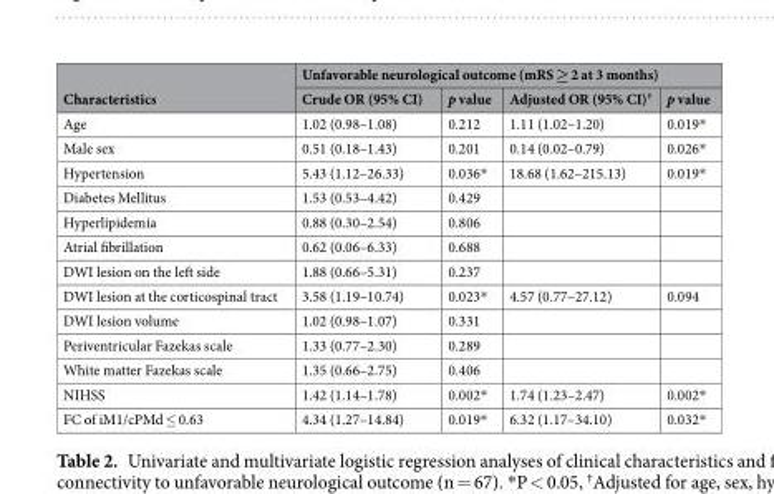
<table><thead><tr><td rowspan="2">Characteristics</td><td colspan="4">Unfavorable neurological outcome (mRS ≥ 2 at 3 months)</td></tr><tr><td>Crude OR (95% CI)</td><td>p value</td><td>Adjusted OR (95% CI)<sup>†</sup></td><td>p value</td></tr></thead><tbody><tr><td>Age</td><td>1.02 (0.98–1.08)</td><td>0.212</td><td>1.11 (1.02–1.20)</td><td>0.019*</td></tr><tr><td>Male sex</td><td>0.51 (0.18–1.43)</td><td>0.201</td><td>0.14 (0.02–0.79)</td><td>0.026*</td></tr><tr><td>Hypertension</td><td>5.43 (1.12–26.33)</td><td>0.036*</td><td>18.68 (1.62–215.13)</td><td>0.019*</td></tr><tr><td>Diabetes Mellitus</td><td>1.53 (0.53–4.42)</td><td>0.429</td><td></td><td></td></tr><tr><td>Hyperlipidemia</td><td>0.88 (0.30–2.54)</td><td>0.806</td><td></td><td></td></tr><tr><td>Atrial fibrillation</td><td>0.62 (0.06–6.33)</td><td>0.688</td><td></td><td></td></tr><tr><td>DWI lesion on the left side</td><td>1.88 (0.66–5.31)</td><td>0.237</td><td></td><td></td></tr><tr><td>DWI lesion at the corticospinal tract</td><td>3.58 (1.19–10.74)</td><td>0.023*</td><td>4.57 (0.77–27.12)</td><td>0.094</td></tr><tr><td>DWI lesion volume</td><td>1.02 (0.98–1.07)</td><td>0.331</td><td></td><td></td></tr><tr><td>Periventricular Fazekas scale</td><td>1.33 (0.77–2.30)</td><td>0.289</td><td></td><td></td></tr><tr><td>White matter Fazekas scale</td><td>1.35 (0.66–2.75)</td><td>0.406</td><td></td><td></td></tr><tr><td>NIHSS</td><td>1.42 (1.14–1.78)</td><td>0.002*</td><td>1.74 (1.23–2.47)</td><td>0.002*</td></tr><tr><td>FC of iM1/cPMd ≤ 0.63</td><td>4.34 (1.27–14.84)</td><td>0.019*</td><td>6.32 (1.17–34.10)</td><td>0.032*</td></tr></tbody></table>